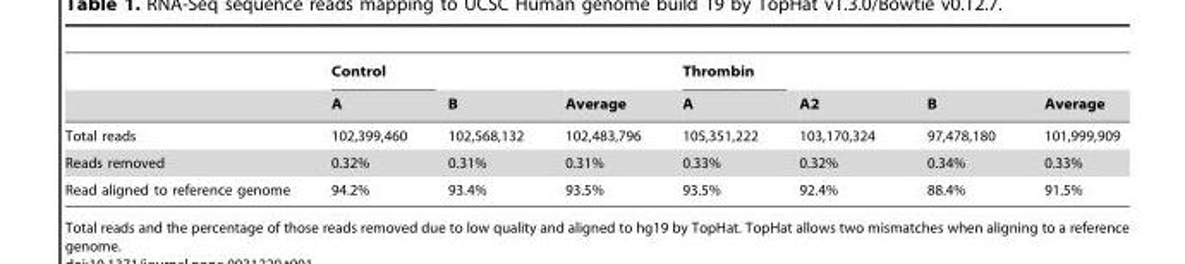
<table><thead><tr><td rowspan="2"></td><td rowspan="2">Control A</td><td rowspan="2">B</td><td rowspan="2">Average</td><td rowspan="2">Thrombin A</td><td rowspan="2">A2</td><td rowspan="2">B</td><td rowspan="2">Average</td></tr><tr></tr></thead><tbody><tr><td>Total reads</td><td>102,399,460</td><td>102,568,132</td><td>102,483,796</td><td>105,351,222</td><td>103,170,324</td><td>97,478,180</td><td>101,999,909</td></tr><tr><td>Reads removed</td><td>0.32%</td><td>0.31%</td><td>0.31%</td><td>0.33%</td><td>0.32%</td><td>0.34%</td><td>0.33%</td></tr><tr><td>Read aligned to reference genome</td><td>94.2%</td><td>93.4%</td><td>93.5%</td><td>93.5%</td><td>92.4%</td><td>88.4%</td><td>91.5%</td></tr></tbody></table>